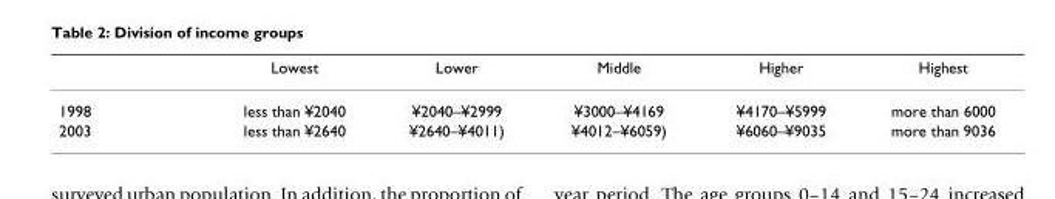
<table><thead><tr><td></td><td>Lowest</td><td>Lower</td><td>Middle</td><td>Higher</td><td>Highest</td></tr></thead><tbody><tr><td>1998</td><td>less than ¥2040</td><td>¥2040–¥2999</td><td>¥3000–¥4169</td><td>¥4170–¥5999</td><td>more than 6000</td></tr><tr><td>2003</td><td>less than ¥2640</td><td>¥2640–¥4011)</td><td>¥4012–¥6059)</td><td>¥6060–¥9035</td><td>more than 9036</td></tr></tbody></table>